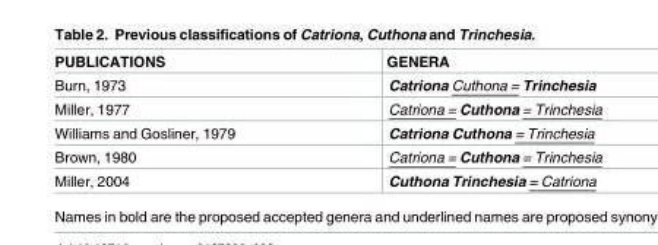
<table><thead><tr><td>PUBLICATIONS</td><td>GENERA</td></tr></thead><tbody><tr><td>Burn, 1973</td><td>Catriona Cuthona = Trinchesia</td></tr><tr><td>Miller, 1977</td><td>Catriona = Cuthona = Trinchesia</td></tr><tr><td>Williams and Gosliner, 1979</td><td>Catriona Cuthona = Trinchesia</td></tr><tr><td>Brown, 1980</td><td>Catriona = Cuthona = Trinchesia</td></tr><tr><td>Miller, 2004</td><td>Cuthona Trinchesia = Catriona</td></tr></tbody></table>